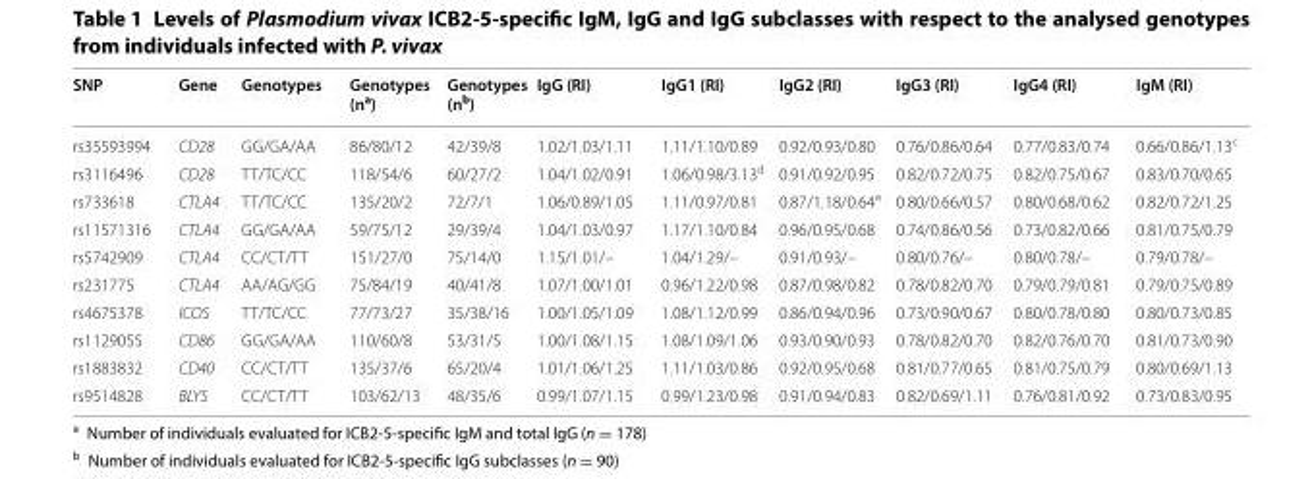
<table><thead><tr><td>SNP</td><td>Gene</td><td>Genotypes</td><td>Genotypes (n<sup>a</sup>)</td><td>Genotypes (n<sup>b</sup>)</td><td>IgG (RI)</td><td>IgG1 (RI)</td><td>IgG2 (RI)</td><td>IgG3 (RI)</td><td>IgG4 (RI)</td><td>IgM (RI)</td></tr></thead><tbody><tr><td>rs35593994</td><td>CD28</td><td>GG/GA/AA</td><td>86/80/12</td><td>42/39/8</td><td>1.02/1.03/1.11</td><td>1.11/1.10/0.89</td><td>0.92/0.93/0.80</td><td>0.76/0.86/0.64</td><td>0.77/0.83/0.74</td><td>0.66/0.86/1.13<sup>c</sup></td></tr><tr><td>rs3116496</td><td>CD28</td><td>TT/TC/CC</td><td>118/54/6</td><td>60/27/2</td><td>1.04/1.02/0.91</td><td>1.06/0.98/3.13<sup>d</sup></td><td>0.91/0.92/0.95</td><td>0.82/0.72/0.75</td><td>0.82/0.75/0.67</td><td>0.83/0.70/0.65</td></tr><tr><td>rs733618</td><td>CTLA4</td><td>TT/TC/CC</td><td>135/20/2</td><td>72/7/1</td><td>1.06/0.89/1.05</td><td>1.11/0.97/0.81</td><td>0.87/1.18/0.64<sup>e</sup></td><td>0.80/0.66/0.57</td><td>0.80/0.68/0.62</td><td>0.82/0.72/1.25</td></tr><tr><td>rs11571316</td><td>CTLA4</td><td>GG/GA/AA</td><td>59/75/12</td><td>29/39/4</td><td>1.04/1.03/0.97</td><td>1.17/1.10/0.84</td><td>0.96/0.95/0.68</td><td>0.74/0.86/0.56</td><td>0.73/0.82/0.66</td><td>0.81/0.75/0.79</td></tr><tr><td>rs5742909</td><td>CTLA4</td><td>CC/CT/TT</td><td>151/27/0</td><td>75/14/0</td><td>1.15/1.01/–</td><td>1.04/1.29/–</td><td>0.91/0.93/–</td><td>0.80/0.76/–</td><td>0.80/0.78/–</td><td>0.79/0.78/–</td></tr><tr><td>rs231775</td><td>CTLA4</td><td>AA/AG/GG</td><td>75/84/19</td><td>40/41/8</td><td>1.07/1.00/1.01</td><td>0.96/1.22/0.98</td><td>0.87/0.98/0.82</td><td>0.78/0.82/0.70</td><td>0.79/0.79/0.81</td><td>0.79/0.75/0.89</td></tr><tr><td>rs4675378</td><td>ICOS</td><td>TT/TC/CC</td><td>77/73/27</td><td>35/38/16</td><td>1.00/1.05/1.09</td><td>1.08/1.12/0.99</td><td>0.86/0.94/0.96</td><td>0.73/0.90/0.67</td><td>0.80/0.78/0.80</td><td>0.80/0.73/0.85</td></tr><tr><td>rs1129055</td><td>CD86</td><td>GG/GA/AA</td><td>110/60/8</td><td>53/31/5</td><td>1.00/1.08/1.15</td><td>1.08/1.09/1.06</td><td>0.93/0.90/0.93</td><td>0.78/0.82/0.70</td><td>0.82/0.76/0.70</td><td>0.81/0.73/0.90</td></tr><tr><td>rs1883832</td><td>CD40</td><td>CC/CT/TT</td><td>135/37/6</td><td>65/20/4</td><td>1.01/1.06/1.25</td><td>1.11/1.03/0.86</td><td>0.92/0.95/0.68</td><td>0.81/0.77/0.65</td><td>0.81/0.75/0.79</td><td>0.80/0.69/1.13</td></tr><tr><td>rs9514828</td><td>BLYS</td><td>CC/CT/TT</td><td>103/62/13</td><td>48/35/6</td><td>0.99/1.07/1.15</td><td>0.99/1.23/0.98</td><td>0.91/0.94/0.83</td><td>0.82/0.69/1.11</td><td>0.76/0.81/0.92</td><td>0.73/0.83/0.95</td></tr></tbody></table>